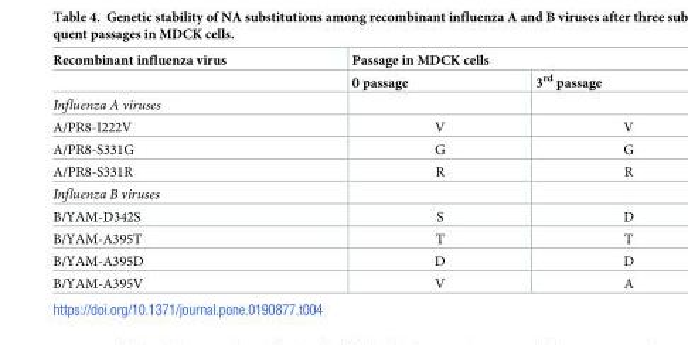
<table><thead><tr><td rowspan="2">Recombinant influenza virus</td><td colspan="2">Passage in MDCK cells</td></tr><tr><td>0 passage</td><td>3<sup>rd</sup> passage</td></tr></thead><tbody><tr><td colspan="3">Influenza A viruses</td></tr><tr><td>A/PR8-I222V</td><td>V</td><td>V</td></tr><tr><td>A/PR8-S331G</td><td>G</td><td>G</td></tr><tr><td>A/PR8-S331R</td><td>R</td><td>R</td></tr><tr><td colspan="3">Influenza B viruses</td></tr><tr><td>B/YAM-D342S</td><td>S</td><td>D</td></tr><tr><td>B/YAM-A395T</td><td>T</td><td>T</td></tr><tr><td>B/YAM-A395D</td><td>D</td><td>D</td></tr><tr><td>B/YAM-A395V</td><td>V</td><td>A</td></tr></tbody></table>